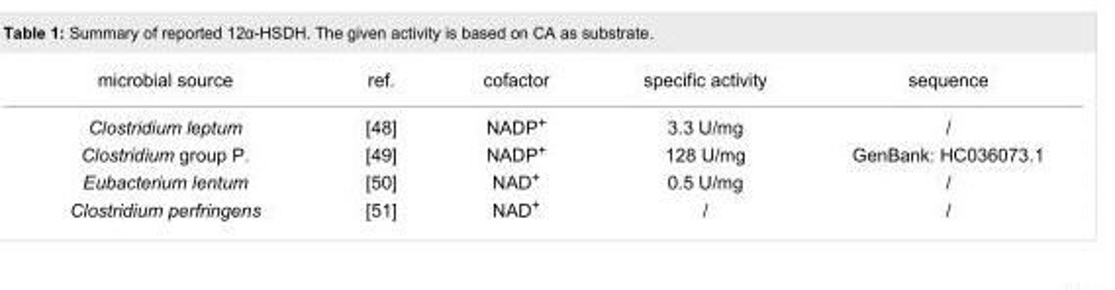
<table><tbody><tr><td>microbial source</td><td>ref.</td><td>cofactor</td><td>specific activity</td><td>sequence</td></tr><tr><td>Clostridium leptum</td><td>[48]</td><td>NADP<sup>+</sup></td><td>3.3 U/mg</td><td>/</td></tr><tr><td>Clostridium group P.</td><td>[49]</td><td>NADP<sup>+</sup></td><td>128 U/mg</td><td>GenBank: HC036073.1</td></tr><tr><td>Eubacterium lentum</td><td>[50]</td><td>NAD<sup>+</sup></td><td>0.5 U/mg</td><td>/</td></tr><tr><td>Clostridium perfringens</td><td>[51]</td><td>NAD<sup>+</sup></td><td>/</td><td>/</td></tr></tbody></table>